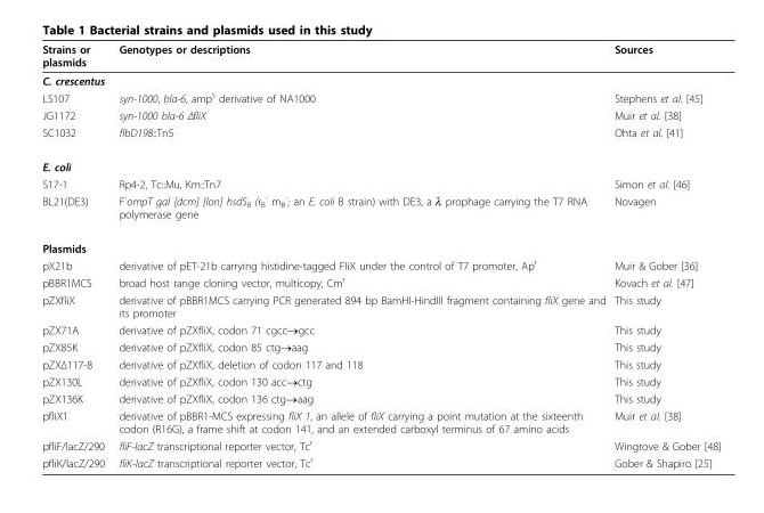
<table><thead><tr><td>Strains or plasmids</td><td>Genotypes or descriptions</td><td>Sources</td></tr></thead><tbody><tr><td colspan="3">C. crescentus</td></tr><tr><td>LS107</td><td>syn-1000, bla-6, amp<sup>s</sup> derivative of NA1000</td><td>Stephens et al. [45]</td></tr><tr><td>JG1172</td><td>syn-1000 bla-6 ΔfliX</td><td>Muir et al. [38]</td></tr><tr><td>SC1032</td><td>flbD198::Tn5</td><td>Ohta et al. [41]</td></tr><tr><td colspan="3">E. coli</td></tr><tr><td>S17-1</td><td>Rp4-2, Tc::Mu, Km::Tn7</td><td>Simon et al. [46]</td></tr><tr><td>BL21(DE3)</td><td>F<sup>-</sup>ompT gal [dcm] [lon] hsdS<sub>B</sub> (r<sub>B</sub> <sup>-</sup> m<sub>B</sub> <sup>-</sup>; an E. coli B strain) with DE3, a λ prophage carrying the T7 RNA polymerase gene</td><td>Novagen</td></tr><tr><td colspan="3">Plasmids</td></tr><tr><td>pX21b</td><td>derivative of pET-21b carrying histidine-tagged FliX under the control of T7 promoter, Ap<sup>r</sup></td><td>Muir &amp; Gober [36]</td></tr><tr><td>pBBR1MCS</td><td>broad host range cloning vector, multicopy, Cm<sup>r</sup></td><td>Kovach et al. [47]</td></tr><tr><td>pZXfliX</td><td>derivative of pBBR1MCS carrying PCR generated 894 bp BamHI-HindIII fragment containing fliX gene and its promoter</td><td>This study</td></tr><tr><td>pZX71A</td><td>derivative of pZXfliX, codon 71 cgcc→gcc</td><td>This study</td></tr><tr><td>pZX85K</td><td>derivative of pZXfliX, codon 85 ctg→aag</td><td>This study</td></tr><tr><td>pZXΔ117-8</td><td>derivative of pZXfliX, deletion of codon 117 and 118</td><td>This study</td></tr><tr><td>pZX130L</td><td>derivative of pZXfliX, codon 130 acc→ctg</td><td>This study</td></tr><tr><td>pZX136K</td><td>derivative of pZXfliX, codon 136 ctg→aag</td><td>This study</td></tr><tr><td>pfliX1</td><td>derivative of pBBR1-MCS expressing fliX 1, an allele of fliX carrying a point mutation at the sixteenth codon (R16G), a frame shift at codon 141, and an extended carboxyl terminus of 67 amino acids</td><td>Muir et al. [38]</td></tr><tr><td>pfliF/lacZ/290</td><td>fliF-lacZ transcriptional reporter vector, Tc<sup>r</sup></td><td>Wingrove &amp; Gober [48]</td></tr><tr><td>pfliK/lacZ/290</td><td>fliK-lacZ transcriptional reporter vector, Tc<sup>r</sup></td><td>Gober &amp; Shapiro [25]</td></tr></tbody></table>